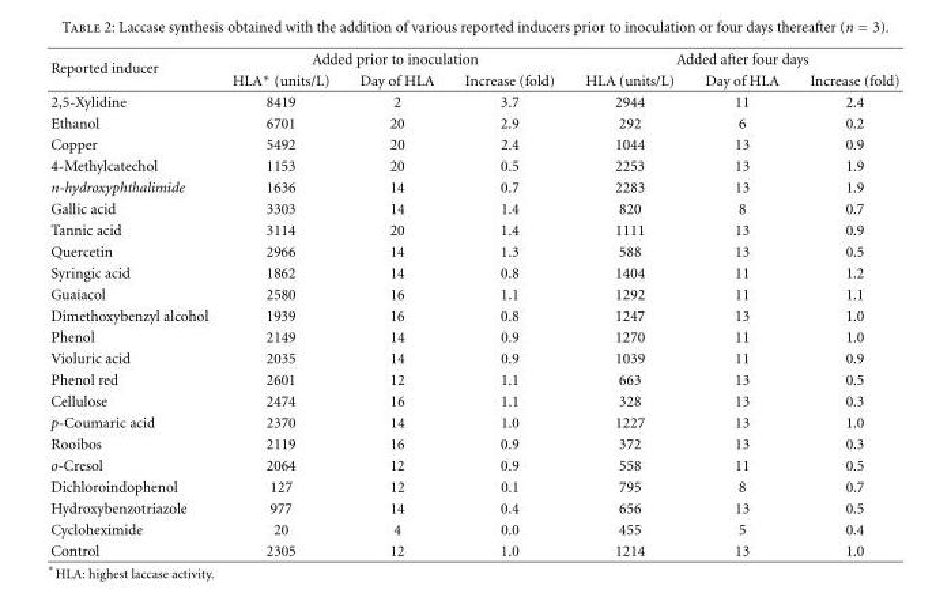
<table><thead><tr><td rowspan="2">Reported inducer</td><td colspan="3">Added prior to inoculation</td><td colspan="3">Added after four days</td></tr><tr><td>HLA∗ (units/L)</td><td>Day of HLA</td><td>Increase (fold)</td><td>HLA (units/L)</td><td>Day of HLA</td><td>Increase (fold)</td></tr></thead><tbody><tr><td>2,5-Xylidine</td><td>8419</td><td>2</td><td>3.7</td><td>2944</td><td>11</td><td>2.4</td></tr><tr><td>Ethanol</td><td>6701</td><td>20</td><td>2.9</td><td>292</td><td>6</td><td>0.2</td></tr><tr><td>Copper</td><td>5492</td><td>20</td><td>2.4</td><td>1044</td><td>13</td><td>0.9</td></tr><tr><td>4-Methylcatechol</td><td>1153</td><td>20</td><td>0.5</td><td>2253</td><td>13</td><td>1.9</td></tr><tr><td>n-hydroxyphthalimide</td><td>1636</td><td>14</td><td>0.7</td><td>2283</td><td>13</td><td>1.9</td></tr><tr><td>Gallic acid</td><td>3303</td><td>14</td><td>1.4</td><td>820</td><td>8</td><td>0.7</td></tr><tr><td>Tannic acid</td><td>3114</td><td>20</td><td>1.4</td><td>1111</td><td>13</td><td>0.9</td></tr><tr><td>Quercetin</td><td>2966</td><td>14</td><td>1.3</td><td>588</td><td>13</td><td>0.5</td></tr><tr><td>Syringic acid</td><td>1862</td><td>14</td><td>0.8</td><td>1404</td><td>11</td><td>1.2</td></tr><tr><td>Guaiacol</td><td>2580</td><td>16</td><td>1.1</td><td>1292</td><td>11</td><td>1.1</td></tr><tr><td>Dimethoxybenzyl alcohol</td><td>1939</td><td>16</td><td>0.8</td><td>1247</td><td>13</td><td>1.0</td></tr><tr><td>Phenol</td><td>2149</td><td>14</td><td>0.9</td><td>1270</td><td>11</td><td>1.0</td></tr><tr><td>Violuric acid</td><td>2035</td><td>14</td><td>0.9</td><td>1039</td><td>11</td><td>0.9</td></tr><tr><td>Phenol red</td><td>2601</td><td>12</td><td>1.1</td><td>663</td><td>13</td><td>0.5</td></tr><tr><td>Cellulose</td><td>2474</td><td>16</td><td>1.1</td><td>328</td><td>13</td><td>0.3</td></tr><tr><td>p-Coumaric acid</td><td>2370</td><td>14</td><td>1.0</td><td>1227</td><td>13</td><td>1.0</td></tr><tr><td>Rooibos</td><td>2119</td><td>16</td><td>0.9</td><td>372</td><td>13</td><td>0.3</td></tr><tr><td>o-Cresol</td><td>2064</td><td>12</td><td>0.9</td><td>558</td><td>11</td><td>0.5</td></tr><tr><td>Dichloroindophenol</td><td>127</td><td>12</td><td>0.1</td><td>795</td><td>8</td><td>0.7</td></tr><tr><td>Hydroxybenzotriazole</td><td>977</td><td>14</td><td>0.4</td><td>656</td><td>13</td><td>0.5</td></tr><tr><td>Cycloheximide</td><td>20</td><td>4</td><td>0.0</td><td>455</td><td>5</td><td>0.4</td></tr><tr><td>Control</td><td>2305</td><td>12</td><td>1.0</td><td>1214</td><td>13</td><td>1.0</td></tr></tbody></table>